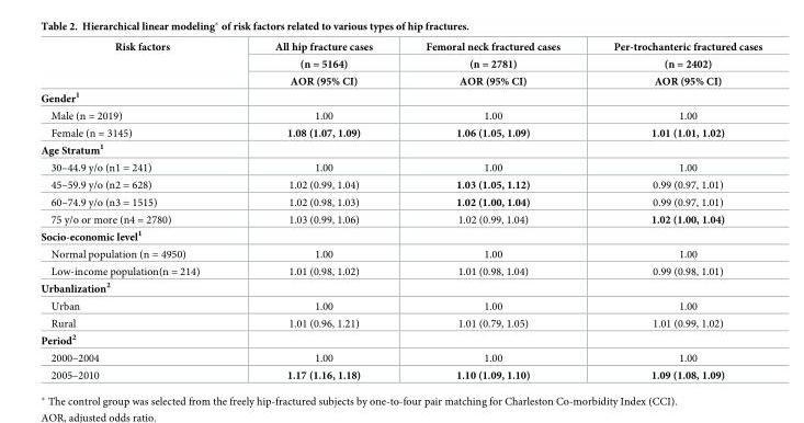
<table><thead><tr><td rowspan="3">Risk factors</td><td rowspan="3">All hip fracture cases (n = 5164) AOR (95% CI)</td><td rowspan="3">Femoral neck fractured cases (n = 2781) AOR (95% CI)</td><td rowspan="3">Per-trochanteric fractured cases (n = 2402) AOR (95% CI)</td></tr><tr></tr><tr></tr></thead><tbody><tr><td colspan="4">Gender<sup>1</sup></td></tr><tr><td>Male (n = 2019)</td><td>1.00</td><td>1.00</td><td>1.00</td></tr><tr><td>Female (n = 3145)</td><td>1.08 (1.07, 1.09)</td><td>1.06 (1.05, 1.09)</td><td>1.01 (1.01, 1.02)</td></tr><tr><td colspan="4">Age Stratum<sup>1</sup></td></tr><tr><td>30–44.9 y/o (n1 = 241)</td><td>1.00</td><td>1.00</td><td>1.00</td></tr><tr><td>45–59.9 y/o (n2 = 628)</td><td>1.02 (0.99, 1.04)</td><td>1.03 (1.05, 1.12)</td><td>0.99 (0.97, 1.01)</td></tr><tr><td>60–74.9 y/o (n3 = 1515)</td><td>1.02 (0.98, 1.03)</td><td>1.02 (1.00, 1.04)</td><td>0.99 (0.97, 1.01)</td></tr><tr><td>75 y/o or more (n4 = 2780)</td><td>1.03 (0.99, 1.06)</td><td>1.02 (0.99, 1.04)</td><td>1.02 (1.00, 1.04)</td></tr><tr><td colspan="4">Socio-economic level<sup>1</sup></td></tr><tr><td>Normal population (n = 4950)</td><td>1.00</td><td>1.00</td><td>1.00</td></tr><tr><td>Low-income population(n = 214)</td><td>1.01 (0.98, 1.02)</td><td>1.01 (0.98, 1.04)</td><td>0.99 (0.98, 1.01)</td></tr><tr><td colspan="4">Urbanlization<sup>2</sup></td></tr><tr><td>Urban</td><td>1.00</td><td>1.00</td><td>1.00</td></tr><tr><td>Rural</td><td>1.01 (0.96, 1.21)</td><td>1.01 (0.79, 1.05)</td><td>1.01 (0.99, 1.02)</td></tr><tr><td colspan="4">Period<sup>2</sup></td></tr><tr><td>2000–2004</td><td>1.00</td><td>1.00</td><td>1.00</td></tr><tr><td>2005–2010</td><td>1.17 (1.16, 1.18)</td><td>1.10 (1.09, 1.10)</td><td>1.09 (1.08, 1.09)</td></tr></tbody></table>